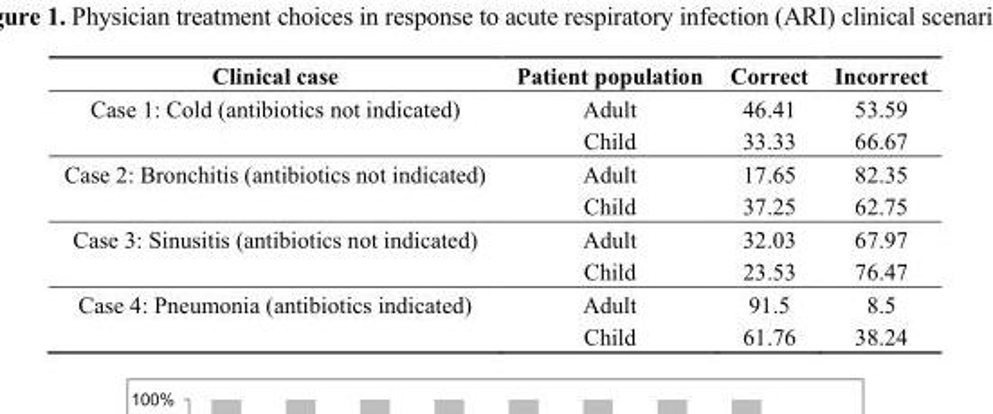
<table><thead><tr><td rowspan="9">Clinical case Case 1: Cold (antibiotics not indicated) Case 2: Bronchitis (antibiotics not indicated) Case 3: Sinusitis (antibiotics not indicated) Case 4: Pneumonia (antibiotics indicated)</td><td rowspan="9">Patient population Adult Child Adult Child Adult Child Adult Child</td><td rowspan="9">Correct 46.41 33.33 17.65 37.25 32.03 23.53 91.5 61.76</td><td rowspan="9">Incorrect 53.59 66.67 82.35 62.75 67.97 76.47 8.5 38.24</td></tr><tr></tr><tr></tr><tr></tr><tr></tr><tr></tr><tr></tr><tr></tr><tr></tr></thead><tbody></tbody></table>